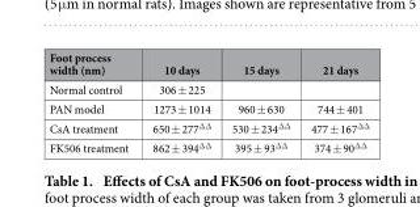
<table><thead><tr><td>Foot process width (nm)</td><td>10 days</td><td>15 days</td><td>21 days</td></tr></thead><tbody><tr><td>Normal control</td><td>306 ± 225</td><td></td><td></td></tr><tr><td>PAN model</td><td>1273 ± 1014</td><td>960 ± 630</td><td>744 ± 401</td></tr><tr><td>CsA treatment</td><td>650 ± 277ΔΔ</td><td>530 ± 234ΔΔ</td><td>477 ± 167ΔΔ</td></tr><tr><td>FK506 treatment</td><td>862 ± 394ΔΔ</td><td>395 ± 93ΔΔ</td><td>374 ± 90ΔΔ</td></tr></tbody></table>